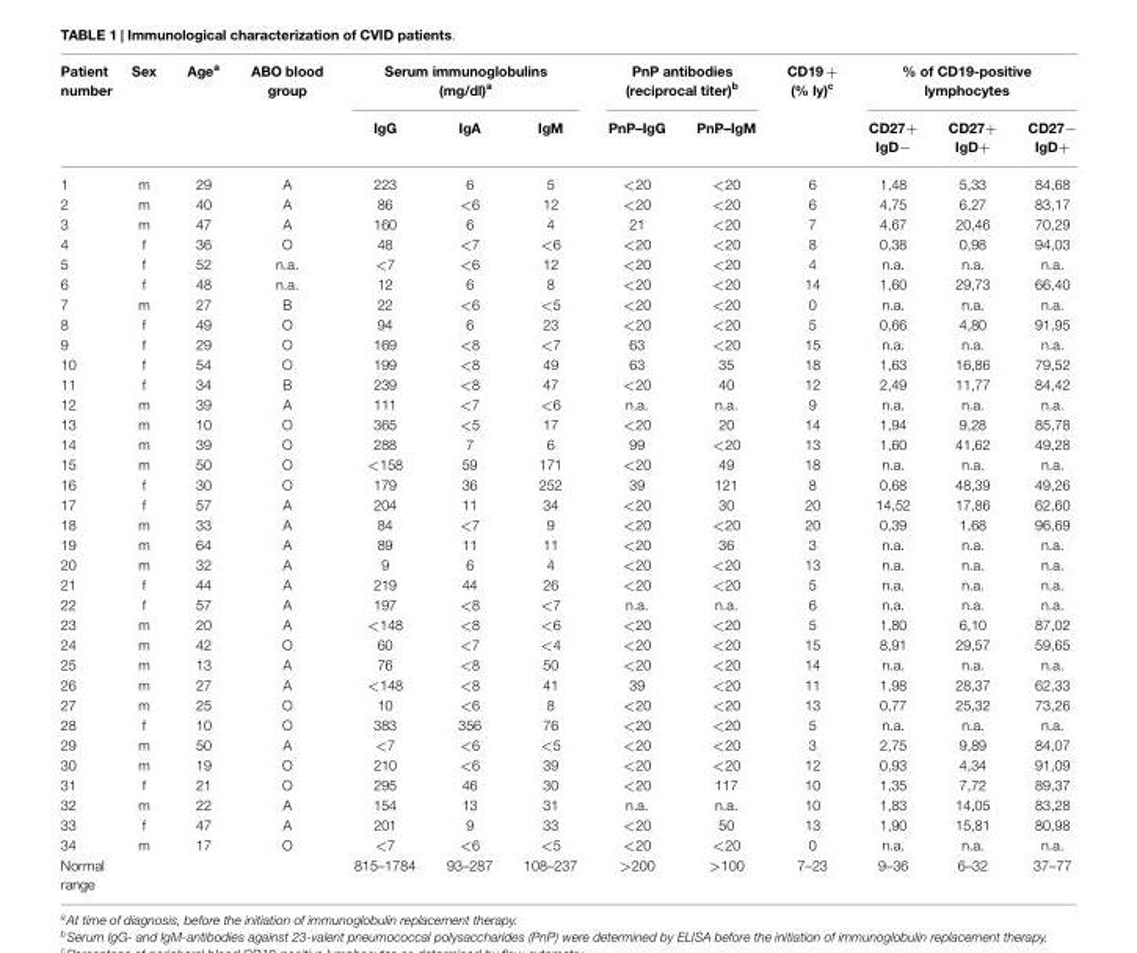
<table><thead><tr><td rowspan="2">Patient number</td><td rowspan="2">Sex</td><td rowspan="2">Age<sup>a</sup></td><td rowspan="2">ABO blood group</td><td colspan="3">Serum immunoglobulins (mg/dl)<sup>a</sup></td><td colspan="2">PnP antibodies (reciprocal titer)<sup>b</sup></td><td rowspan="2">CD19 + (% ly)<sup>c</sup></td><td colspan="3">% of CD19-positive lymphocytes</td></tr><tr><td>IgG</td><td>IgA</td><td>IgM</td><td>PnP–IgG</td><td>PnP–IgM</td><td>CD27+ IgD−</td><td>CD27+ IgD+</td><td>CD27− IgD+</td></tr></thead><tbody><tr><td>1</td><td>m</td><td>29</td><td>A</td><td>223</td><td>6</td><td>5</td><td>&lt;20</td><td>&lt;20</td><td>6</td><td>1,48</td><td>5,33</td><td>84,68</td></tr><tr><td>2</td><td>m</td><td>40</td><td>A</td><td>86</td><td>&lt;6</td><td>12</td><td>&lt;20</td><td>&lt;20</td><td>6</td><td>4,75</td><td>6,27</td><td>83,17</td></tr><tr><td>3</td><td>m</td><td>47</td><td>A</td><td>160</td><td>6</td><td>4</td><td>21</td><td>&lt;20</td><td>7</td><td>4,67</td><td>20,46</td><td>70,29</td></tr><tr><td>4</td><td>f</td><td>36</td><td>O</td><td>48</td><td>&lt;7</td><td>&lt;6</td><td>&lt;20</td><td>&lt;20</td><td>8</td><td>0,38</td><td>0,98</td><td>94,03</td></tr><tr><td>5</td><td>f</td><td>52</td><td>n.a.</td><td>&lt;7</td><td>&lt;6</td><td>12</td><td>&lt;20</td><td>&lt;20</td><td>4</td><td>n.a.</td><td>n.a.</td><td>n.a.</td></tr><tr><td>6</td><td>f</td><td>48</td><td>n.a.</td><td>12</td><td>6</td><td>8</td><td>&lt;20</td><td>&lt;20</td><td>14</td><td>1,60</td><td>29,73</td><td>66,40</td></tr><tr><td>7</td><td>m</td><td>27</td><td>B</td><td>22</td><td>&lt;6</td><td>&lt;5</td><td>&lt;20</td><td>&lt;20</td><td>0</td><td>n.a.</td><td>n.a.</td><td>n.a.</td></tr><tr><td>8</td><td>f</td><td>49</td><td>O</td><td>94</td><td>6</td><td>23</td><td>&lt;20</td><td>&lt;20</td><td>5</td><td>0,66</td><td>4,80</td><td>91,95</td></tr><tr><td>9</td><td>f</td><td>29</td><td>O</td><td>169</td><td>&lt;8</td><td>&lt;7</td><td>63</td><td>&lt;20</td><td>15</td><td>n.a.</td><td>n.a.</td><td>n.a.</td></tr><tr><td>10</td><td>f</td><td>54</td><td>O</td><td>199</td><td>&lt;8</td><td>49</td><td>63</td><td>35</td><td>18</td><td>1,63</td><td>16,86</td><td>79,52</td></tr><tr><td>11</td><td>f</td><td>34</td><td>B</td><td>239</td><td>&lt;8</td><td>47</td><td>&lt;20</td><td>40</td><td>12</td><td>2,49</td><td>11,77</td><td>84,42</td></tr><tr><td>12</td><td>m</td><td>39</td><td>A</td><td>111</td><td>&lt;7</td><td>&lt;6</td><td>n.a.</td><td>n.a.</td><td>9</td><td>n.a.</td><td>n.a.</td><td>n.a.</td></tr><tr><td>13</td><td>m</td><td>10</td><td>O</td><td>365</td><td>&lt;5</td><td>17</td><td>&lt;20</td><td>20</td><td>14</td><td>1,94</td><td>9,28</td><td>85,78</td></tr><tr><td>14</td><td>m</td><td>39</td><td>O</td><td>288</td><td>7</td><td>6</td><td>99</td><td>&lt;20</td><td>13</td><td>1,60</td><td>41,62</td><td>49,28</td></tr><tr><td>15</td><td>m</td><td>50</td><td>O</td><td>&lt;158</td><td>59</td><td>171</td><td>&lt;20</td><td>49</td><td>18</td><td>n.a.</td><td>n.a.</td><td>n.a.</td></tr><tr><td>16</td><td>f</td><td>30</td><td>O</td><td>179</td><td>36</td><td>252</td><td>39</td><td>121</td><td>8</td><td>0,68</td><td>48,39</td><td>49,26</td></tr><tr><td>17</td><td>f</td><td>57</td><td>A</td><td>204</td><td>11</td><td>34</td><td>&lt;20</td><td>30</td><td>20</td><td>14,52</td><td>17,86</td><td>62,60</td></tr><tr><td>18</td><td>m</td><td>33</td><td>A</td><td>84</td><td>&lt;7</td><td>9</td><td>&lt;20</td><td>&lt;20</td><td>20</td><td>0,39</td><td>1,68</td><td>96,69</td></tr><tr><td>19</td><td>m</td><td>64</td><td>A</td><td>89</td><td>11</td><td>11</td><td>&lt;20</td><td>36</td><td>3</td><td>n.a.</td><td>n.a.</td><td>n.a.</td></tr><tr><td>20</td><td>m</td><td>32</td><td>A</td><td>9</td><td>6</td><td>4</td><td>&lt;20</td><td>&lt;20</td><td>13</td><td>n.a.</td><td>n.a.</td><td>n.a.</td></tr><tr><td>21</td><td>f</td><td>44</td><td>A</td><td>219</td><td>44</td><td>26</td><td>&lt;20</td><td>&lt;20</td><td>5</td><td>n.a.</td><td>n.a.</td><td>n.a.</td></tr><tr><td>22</td><td>f</td><td>57</td><td>A</td><td>197</td><td>&lt;8</td><td>&lt;7</td><td>n.a.</td><td>n.a.</td><td>6</td><td>n.a.</td><td>n.a.</td><td>n.a.</td></tr><tr><td>23</td><td>m</td><td>20</td><td>A</td><td>&lt;148</td><td>&lt;8</td><td>&lt;6</td><td>&lt;20</td><td>&lt;20</td><td>5</td><td>1,80</td><td>6,10</td><td>87,02</td></tr><tr><td>24</td><td>m</td><td>42</td><td>O</td><td>60</td><td>&lt;7</td><td>&lt;4</td><td>&lt;20</td><td>&lt;20</td><td>15</td><td>8,91</td><td>29,57</td><td>59,65</td></tr><tr><td>25</td><td>m</td><td>13</td><td>A</td><td>76</td><td>&lt;8</td><td>50</td><td>&lt;20</td><td>&lt;20</td><td>14</td><td>n.a.</td><td>n.a.</td><td>n.a.</td></tr><tr><td>26</td><td>m</td><td>27</td><td>A</td><td>&lt;148</td><td>&lt;8</td><td>41</td><td>39</td><td>&lt;20</td><td>11</td><td>1,98</td><td>28,37</td><td>62,33</td></tr><tr><td>27</td><td>m</td><td>25</td><td>O</td><td>10</td><td>&lt;6</td><td>8</td><td>&lt;20</td><td>&lt;20</td><td>13</td><td>0,77</td><td>25,32</td><td>73,26</td></tr><tr><td>28</td><td>f</td><td>10</td><td>O</td><td>383</td><td>356</td><td>76</td><td>&lt;20</td><td>&lt;20</td><td>5</td><td>n.a.</td><td>n.a.</td><td>n.a.</td></tr><tr><td>29</td><td>m</td><td>50</td><td>A</td><td>&lt;7</td><td>&lt;6</td><td>&lt;5</td><td>&lt;20</td><td>&lt;20</td><td>3</td><td>2,75</td><td>9,89</td><td>84,07</td></tr><tr><td>30</td><td>m</td><td>19</td><td>O</td><td>210</td><td>&lt;6</td><td>39</td><td>&lt;20</td><td>&lt;20</td><td>12</td><td>0,93</td><td>4,34</td><td>91,09</td></tr><tr><td>31</td><td>f</td><td>21</td><td>O</td><td>295</td><td>46</td><td>30</td><td>&lt;20</td><td>117</td><td>10</td><td>1,35</td><td>7,72</td><td>89,37</td></tr><tr><td>32</td><td>m</td><td>22</td><td>A</td><td>154</td><td>13</td><td>31</td><td>n.a.</td><td>n.a.</td><td>10</td><td>1,83</td><td>14,05</td><td>83,28</td></tr><tr><td>33</td><td>f</td><td>47</td><td>A</td><td>201</td><td>9</td><td>33</td><td>&lt;20</td><td>50</td><td>13</td><td>1,90</td><td>15,81</td><td>80,98</td></tr><tr><td>34</td><td>m</td><td>17</td><td>O</td><td>&lt;7</td><td>&lt;6</td><td>&lt;5</td><td>&lt;20</td><td>&lt;20</td><td>0</td><td>n.a.</td><td>n.a.</td><td>n.a.</td></tr><tr><td>Normal range</td><td></td><td></td><td></td><td>815–1784</td><td>93–287</td><td>108–237</td><td>&gt;200</td><td>&gt;100</td><td>7–23</td><td>9–36</td><td>6–32</td><td>37–77</td></tr></tbody></table>